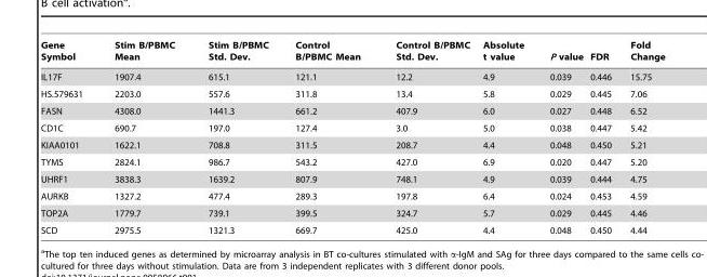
<table><thead><tr><td>Gene Symbol</td><td>Stim B/PBMC Mean</td><td>Stim B/PBMC Std. Dev.</td><td>Control B/PBMC Mean</td><td>Control B/PBMC Std. Dev.</td><td>Absolute t value</td><td>P value</td><td>FDR</td><td>Fold Change</td></tr></thead><tbody><tr><td>IL17F</td><td>1907.4</td><td>615.1</td><td>121.1</td><td>12.2</td><td>4.9</td><td>0.039</td><td>0.446</td><td>15.75</td></tr><tr><td>HS.579631</td><td>2203.0</td><td>557.6</td><td>311.8</td><td>13.4</td><td>5.8</td><td>0.029</td><td>0.445</td><td>7.06</td></tr><tr><td>FASN</td><td>4308.0</td><td>1441.3</td><td>661.2</td><td>407.9</td><td>6.0</td><td>0.027</td><td>0.448</td><td>6.52</td></tr><tr><td>CD1C</td><td>690.7</td><td>197.0</td><td>127.4</td><td>3.0</td><td>5.0</td><td>0.038</td><td>0.447</td><td>5.42</td></tr><tr><td>KIAA0101</td><td>1622.1</td><td>708.8</td><td>311.5</td><td>208.7</td><td>4.4</td><td>0.048</td><td>0.450</td><td>5.21</td></tr><tr><td>TYMS</td><td>2824.1</td><td>986.7</td><td>543.2</td><td>427.0</td><td>6.9</td><td>0.020</td><td>0.447</td><td>5.20</td></tr><tr><td>UHRF1</td><td>3838.3</td><td>1639.2</td><td>807.9</td><td>748.1</td><td>4.9</td><td>0.039</td><td>0.444</td><td>4.75</td></tr><tr><td>AURKB</td><td>1327.2</td><td>477.4</td><td>289.3</td><td>197.8</td><td>6.4</td><td>0.024</td><td>0.453</td><td>4.59</td></tr><tr><td>TOP2A</td><td>1779.7</td><td>739.1</td><td>399.5</td><td>324.7</td><td>5.7</td><td>0.029</td><td>0.445</td><td>4.46</td></tr><tr><td>SCD</td><td>2975.5</td><td>1321.3</td><td>669.7</td><td>425.0</td><td>4.4</td><td>0.048</td><td>0.450</td><td>4.44</td></tr></tbody></table>